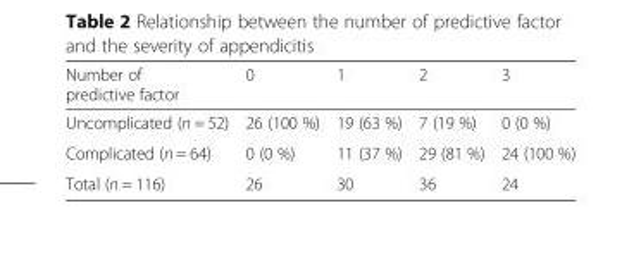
<table><thead><tr><td>Number of predictive factor</td><td>0</td><td>1</td><td>2</td><td>3</td></tr></thead><tbody><tr><td>Uncomplicated (n = 52)</td><td>26 (100 %)</td><td>19 (63 %)</td><td>7 (19 %)</td><td>0 (0 %)</td></tr><tr><td>Complicated (n = 64)</td><td>0 (0 %)</td><td>11 (37 %)</td><td>29 (81 %)</td><td>24 (100 %)</td></tr><tr><td>Total (n = 116)</td><td>26</td><td>30</td><td>36</td><td>24</td></tr></tbody></table>